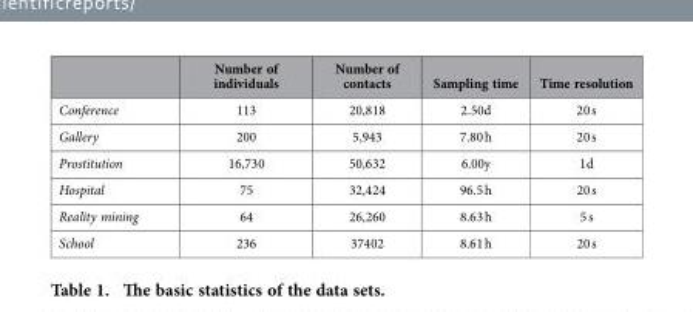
<table><thead><tr><td></td><td>Number of individuals</td><td>Number of contacts</td><td>Sampling time</td><td>Time resolution</td></tr></thead><tbody><tr><td>Conference</td><td>113</td><td>20,818</td><td>2.50d</td><td>20 s</td></tr><tr><td>Gallery</td><td>200</td><td>5,943</td><td>7.80 h</td><td>20 s</td></tr><tr><td>Prostitution</td><td>16,730</td><td>50,632</td><td>6.00y</td><td>1d</td></tr><tr><td>Hospital</td><td>75</td><td>32,424</td><td>96.5 h</td><td>20 s</td></tr><tr><td>Reality mining</td><td>64</td><td>26,260</td><td>8.63 h</td><td>5 s</td></tr><tr><td>School</td><td>236</td><td>37402</td><td>8.61 h</td><td>20 s</td></tr></tbody></table>